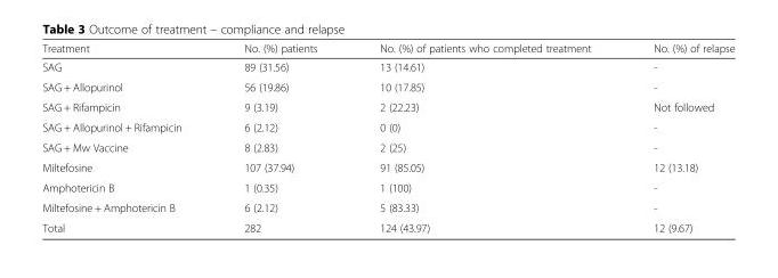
<table><thead><tr><td>Treatment</td><td>No. (%) patients</td><td>No. (%) of patients who completed treatment</td><td>No. (%) of relapse</td></tr></thead><tbody><tr><td>SAG</td><td>89 (31.56)</td><td>13 (14.61)</td><td>-</td></tr><tr><td>SAG + Allopurinol</td><td>56 (19.86)</td><td>10 (17.85)</td><td>-</td></tr><tr><td>SAG + Rifampicin</td><td>9 (3.19)</td><td>2 (22.23)</td><td>Not followed</td></tr><tr><td>SAG + Allopurinol + Rifampicin</td><td>6 (2.12)</td><td>0 (0)</td><td>-</td></tr><tr><td>SAG + Mw Vaccine</td><td>8 (2.83)</td><td>2 (25)</td><td>-</td></tr><tr><td>Miltefosine</td><td>107 (37.94)</td><td>91 (85.05)</td><td>12 (13.18)</td></tr><tr><td>Amphotericin B</td><td>1 (0.35)</td><td>1 (100)</td><td>-</td></tr><tr><td>Miltefosine + Amphotericin B</td><td>6 (2.12)</td><td>5 (83.33)</td><td>-</td></tr><tr><td>Total</td><td>282</td><td>124 (43.97)</td><td>12 (9.67)</td></tr></tbody></table>